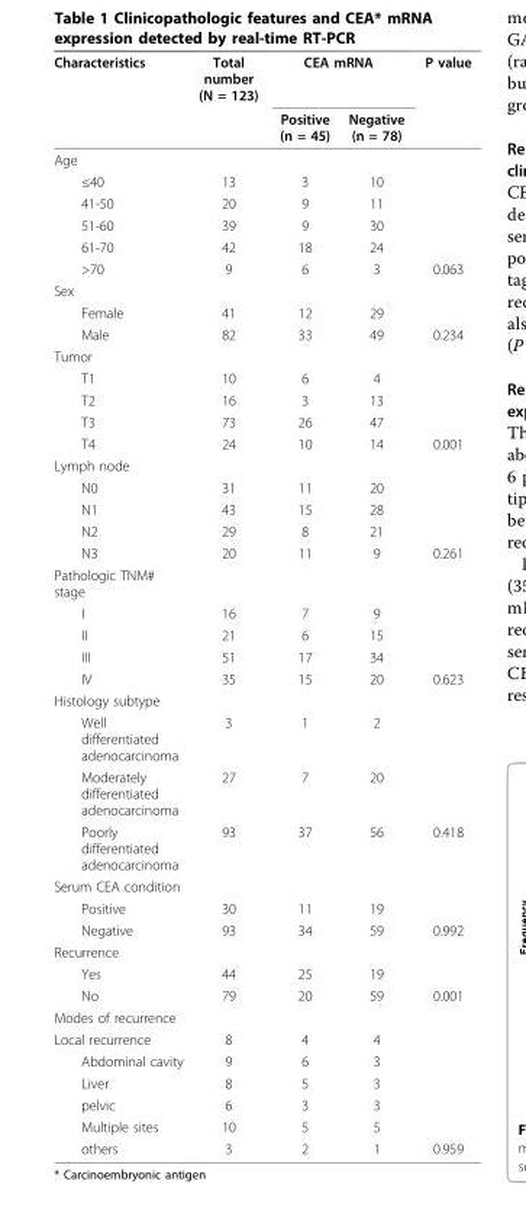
<table><thead><tr><td rowspan="2">Characteristics</td><td rowspan="2">Total number (N = 123)</td><td colspan="2">CEA mRNA</td><td rowspan="2">P value</td></tr><tr><td>Positive (n = 45)</td><td>Negative (n = 78)</td></tr></thead><tbody><tr><td colspan="5">Age</td></tr><tr><td>≤40</td><td>13</td><td>3</td><td>10</td><td></td></tr><tr><td>41-50</td><td>20</td><td>9</td><td>11</td><td></td></tr><tr><td>51-60</td><td>39</td><td>9</td><td>30</td><td></td></tr><tr><td>61-70</td><td>42</td><td>18</td><td>24</td><td></td></tr><tr><td>&gt;70</td><td>9</td><td>6</td><td>3</td><td>0.063</td></tr><tr><td colspan="5">Sex</td></tr><tr><td>Female</td><td>41</td><td>12</td><td>29</td><td></td></tr><tr><td>Male</td><td>82</td><td>33</td><td>49</td><td>0.234</td></tr><tr><td colspan="5">Tumor</td></tr><tr><td>T1</td><td>10</td><td>6</td><td>4</td><td></td></tr><tr><td>T2</td><td>16</td><td>3</td><td>13</td><td></td></tr><tr><td>T3</td><td>73</td><td>26</td><td>47</td><td></td></tr><tr><td>T4</td><td>24</td><td>10</td><td>14</td><td>0.001</td></tr><tr><td colspan="5">Lymph node</td></tr><tr><td>N0</td><td>31</td><td>11</td><td>20</td><td></td></tr><tr><td>N1</td><td>43</td><td>15</td><td>28</td><td></td></tr><tr><td>N2</td><td>29</td><td>8</td><td>21</td><td></td></tr><tr><td>N3</td><td>20</td><td>11</td><td>9</td><td>0.261</td></tr><tr><td colspan="5">Pathologic TNM# stage</td></tr><tr><td>I</td><td>16</td><td>7</td><td>9</td><td></td></tr><tr><td>II</td><td>21</td><td>6</td><td>15</td><td></td></tr><tr><td>III</td><td>51</td><td>17</td><td>34</td><td></td></tr><tr><td>IV</td><td>35</td><td>15</td><td>20</td><td>0.623</td></tr><tr><td colspan="5">Histology subtype</td></tr><tr><td>Well differentiated adenocarcinoma</td><td>3</td><td>1</td><td>2</td><td></td></tr><tr><td>Moderately differentiated adenocarcinoma</td><td>27</td><td>7</td><td>20</td><td></td></tr><tr><td>Poorly differentiated adenocarcinoma</td><td>93</td><td>37</td><td>56</td><td>0.418</td></tr><tr><td colspan="5">Serum CEA condition</td></tr><tr><td>Positive</td><td>30</td><td>11</td><td>19</td><td></td></tr><tr><td>Negative</td><td>93</td><td>34</td><td>59</td><td>0.992</td></tr><tr><td colspan="5">Recurrence</td></tr><tr><td>Yes</td><td>44</td><td>25</td><td>19</td><td></td></tr><tr><td>No</td><td>79</td><td>20</td><td>59</td><td>0.001</td></tr><tr><td colspan="5">Modes of recurrence</td></tr><tr><td>Local recurrence</td><td>8</td><td>4</td><td>4</td><td></td></tr><tr><td>Abdominal cavity</td><td>9</td><td>6</td><td>3</td><td></td></tr><tr><td>Liver</td><td>8</td><td>5</td><td>3</td><td></td></tr><tr><td>pelvic</td><td>6</td><td>3</td><td>3</td><td></td></tr><tr><td>Multiple sites</td><td>10</td><td>5</td><td>5</td><td></td></tr><tr><td>others</td><td>3</td><td>2</td><td>1</td><td>0.959</td></tr></tbody></table>